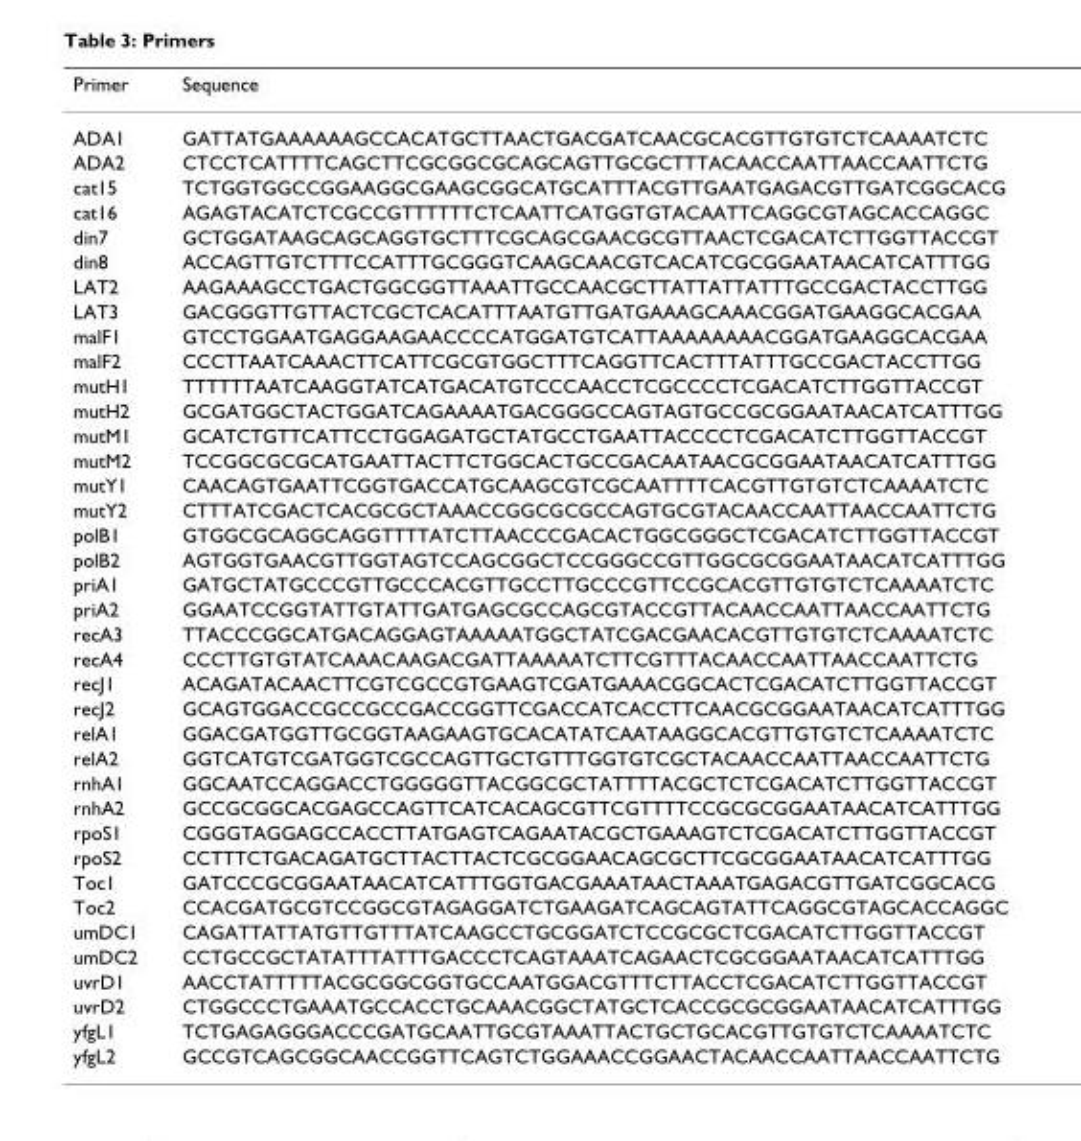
<table><thead><tr><td>Primer</td><td>Sequence</td></tr></thead><tbody><tr><td>ADA1</td><td>GATTATGAAAAAAGCCACATGCTTAACTGACGATCAACGCACGTTGTGTCTCAAAATCTC</td></tr><tr><td>ADA2</td><td>CTCCTCATTTTCAGCTTCGCGGCGCAGCAGTTGCGCTTTACAACCAATTAACCAATTCTG</td></tr><tr><td>cat15</td><td>TCTGGTGGCCGGAAGGCGAAGCGGCATGCATTTACGTTGAATGAGACGTTGATCGGCACG</td></tr><tr><td>cat16</td><td>AGAGTACATCTCGCCGTTTTTTCTCAATTCATGGTGTACAATTCAGGCGTAGCACCAGGC</td></tr><tr><td>din7</td><td>GCTGGATAAGCAGCAGGTGCTTTCGCAGCGAACGCGTTAACTCGACATCTTGGTTACCGT</td></tr><tr><td>din8</td><td>ACCAGTTGTCTTTCCATTTGCGGGTCAAGCAACGTCACATCGCGGAATAACATCATTTGG</td></tr><tr><td>LAT2</td><td>AAGAAAGCCTGACTGGCGGTTAAATTGCCAACGCTTATTATTATTTGCCGACTACCTTGG</td></tr><tr><td>LAT3</td><td>GACGGGTTGTTACTCGCTCACATTTAATGTTGATGAAAGCAAACGGATGAAGGCACGAA</td></tr><tr><td>malF1</td><td>GTCCTGGAATGAGGAAGAACCCCATGGATGTCATTAAAAAAAACGGATGAAGGCACGAA</td></tr><tr><td>malF2</td><td>CCCTTAATCAAACTTCATTCGCGTGGCTTTCAGGTTCACTTTATTTGCCGACTACCTTGG</td></tr><tr><td>mutH1</td><td>TTTTTTAATCAAGGTATCATGACATGTCCCAACCTCGCCCCTCGACATCTTGGTTACCGT</td></tr><tr><td>mutH2</td><td>GCGATGGCTACTGGATCAGAAAATGACGGGCCAGTAGTGCCGCGGAATAACATCATTTGG</td></tr><tr><td>mutM1</td><td>GCATCTGTTCATTCCTGGAGATGCTATGCCTGAATTACCCCTCGACATCTTGGTTACCGT</td></tr><tr><td>mutM2</td><td>TCCGGCGCGCATGAATTACTTCTGGCACTGCCGACAATAACGCGGAATAACATCATTTGG</td></tr><tr><td>mutY1</td><td>CAACAGTGAATTCGGTGACCATGCAAGCGTCGCAATTTTCACGTTGTGTCTCAAAATCTC</td></tr><tr><td>mutY2</td><td>CTTTATCGACTCACGCGCTAAACCGGCGCGCCAGTGCGTACAACCAATTAACCAATTCTG</td></tr><tr><td>polB1</td><td>GTGGCGCAGGCAGGTTTTATCTTAACCCGACACTGGCGGGCTCGACATCTTGGTTACCGT</td></tr><tr><td>polB2</td><td>AGTGGTGAACGTTGGTAGTCCAGCGGCTCCGGGCCGTTGGCGCGGAATAACATCATTTGG</td></tr><tr><td>priA1</td><td>GATGCTATGCCCGTTGCCCACGTTGCCTTGCCCGTTCCGCACGTTGTGTCTCAAAATCTC</td></tr><tr><td>priA2</td><td>GGAATCCGGTATTGTATTGATGAGCGCCAGCGTACCGTTACAACCAATTAACCAATTCTG</td></tr><tr><td>recA3</td><td>TTACCCGGCATGACAGGAGTAAAAATGGCTATCGACGAACACGTTGTGTCTCAAAATCTC</td></tr><tr><td>recA4</td><td>CCCTTGTGTATCAAACAAGACGATTAAAAATCTTCGTTTACAACCAATTAACCAATTCTG</td></tr><tr><td>recJ1</td><td>ACAGATACAACTTCGTCGCCGTGAAGTCGATGAAACGGCACTCGACATCTTGGTTACCGT</td></tr><tr><td>recJ2</td><td>GCAGTGGACCGCCGCCGACCGGTTCGACCATCACCTTCAACGCGGAATAACATCATTTGG</td></tr><tr><td>relA1</td><td>GGACGATGGTTGCGGTAAGAAGTGCACATATCAATAAGGCACGTTGTGTCTCAAAATCTC</td></tr><tr><td>relA2</td><td>GGTCATGTCGATGGTCGCCAGTTGCTGTTTGGTGTCGCTACAACCAATTAACCAATTCTG</td></tr><tr><td>rnhA1</td><td>GGCAATCCAGGACCTGGGGGTTACGGCGCTATTTTACGCTCTCGACATCTTGGTTACCGT</td></tr><tr><td>rnhA2</td><td>GCCGCGGCACGAGCCAGTTCATCACAGCGTTCGTTTTCCGCGCGGAATAACATCATTTGG</td></tr><tr><td>rpoS1</td><td>CGGGTAGGAGCCACCTTATGAGTCAGAATACGCTGAAAGTCTCGACATCTTGGTTACCGT</td></tr><tr><td>rpoS2</td><td>CCTTTCTGACAGATGCTTACTTACTCGCGGAACAGCGCTTCGCGGAATAACATCATTTGG</td></tr><tr><td>Toc1</td><td>GATCCCGCGGAATAACATCATTTGGTGACGAAATAACTAAATGAGACGTTGATCGGCACG</td></tr><tr><td>Toc2</td><td>CCACGATGCGTCCGGCGTAGAGGATCTGAAGATCAGCAGTATTCAGGCGTAGCACCAGGC</td></tr><tr><td>umDC1</td><td>CAGATTATTATGTTGTTTATCAAGCCTGCGGATCTCCGCGCTCGACATCTTGGTTACCGT</td></tr><tr><td>umDC2</td><td>CCTGCCGCTATATTTATTTGACCCTCAGTAAATCAGAACTCGCGGAATAACATCATTTGG</td></tr><tr><td>uvrD1</td><td>AACCTATTTTTACGCGGCGGTGCCAATGGACGTTTCTTACCTCGACATCTTGGTTACCGT</td></tr><tr><td>uvrD2</td><td>CTGGCCCTGAAATGCCACCTGCAAACGGCTATGCTCACCGCGCGGAATAACATCATTTGG</td></tr><tr><td>yfgL1</td><td>TCTGAGAGGGACCCGATGCAATTGCGTAAATTACTGCTGCACGTTGTGTCTCAAAATCTC</td></tr><tr><td>yfgL2</td><td>GCCGTCAGCGGCAACCGGTTCAGTCTGGAAACCGGAACTACAACCAATTAACCAATTCTG</td></tr></tbody></table>